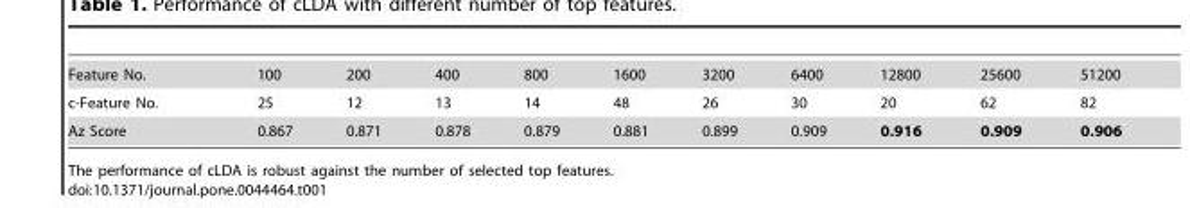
<table><tbody><tr><td>Feature No.</td><td>100</td><td>200</td><td>400</td><td>800</td><td>1600</td><td>3200</td><td>6400</td><td>12800</td><td>25600</td><td>51200</td></tr><tr><td>c-Feature No.</td><td>25</td><td>12</td><td>13</td><td>14</td><td>48</td><td>26</td><td>30</td><td>20</td><td>62</td><td>82</td></tr><tr><td>Az Score</td><td>0.867</td><td>0.871</td><td>0.878</td><td>0.879</td><td>0.881</td><td>0.899</td><td>0.909</td><td>0.916</td><td>0.909</td><td>0.906</td></tr></tbody></table>